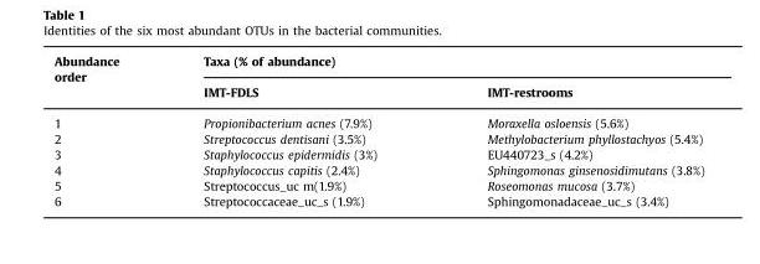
<table><thead><tr><td rowspan="2">Abundance order</td><td colspan="2">Taxa (% of abundance)</td></tr><tr><td>IMT-FDLS</td><td>IMT-restrooms</td></tr></thead><tbody><tr><td>1</td><td>Propionibacterium acnes (7.9%)</td><td>Moraxella osloensis (5.6%)</td></tr><tr><td>2</td><td>Streptococcus dentisani (3.5%)</td><td>Methylobacterium phyllostachyos (5.4%)</td></tr><tr><td>3</td><td>Staphylococcus epidermidis (3%)</td><td>EU440723_s (4.2%)</td></tr><tr><td>4</td><td>Staphylococcus capitis (2.4%)</td><td>Sphingomonas ginsenosidimutans (3.8%)</td></tr><tr><td>5</td><td>Streptococcus_uc m(1.9%)</td><td>Roseomonas mucosa (3.7%)</td></tr><tr><td>6</td><td>Streptococcaceae_uc_s (1.9%)</td><td>Sphingomonadaceae_uc_s (3.4%)</td></tr></tbody></table>